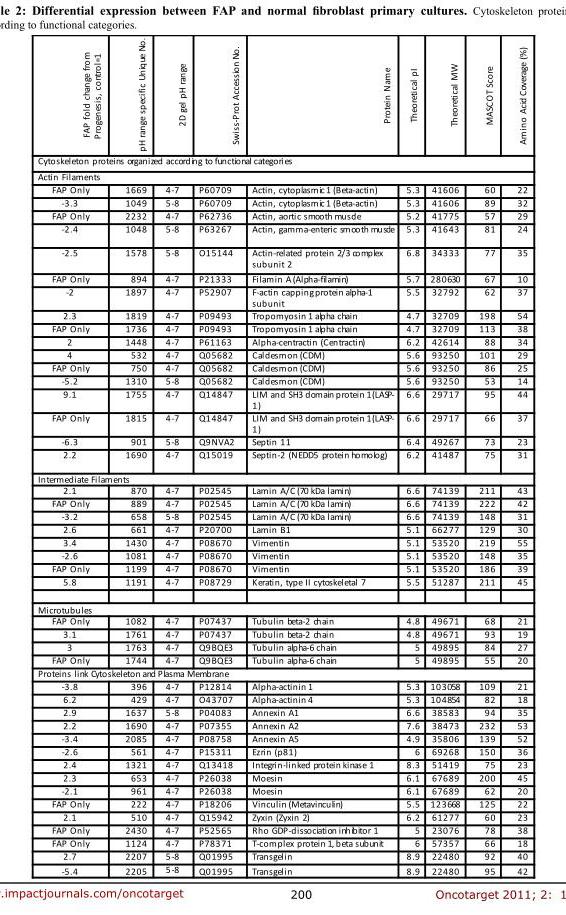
<table><thead><tr><td>FAP fold change from Progenesis, control=1</td><td>pH range specific Unique No.</td><td>2D gel pH range</td><td>Swiss-Prot Accession No.</td><td>Protein Name</td><td>Theoretical pI</td><td>Theoretical MW</td><td>MASCOT Score</td><td>Amino Acid Coverage (%)</td></tr></thead><tbody><tr><td colspan="9">Cytoskeleton proteins organized according to functional categories</td></tr><tr><td colspan="9">Actin Filaments</td></tr><tr><td>FAP Only</td><td>1669</td><td>4-7</td><td>P60709</td><td>Actin, cytoplasmic 1 (Beta-actin)</td><td>5.3</td><td>41606</td><td>60</td><td>22</td></tr><tr><td>-3.3</td><td>1049</td><td>5-8</td><td>P60709</td><td>Actin, cytoplasmic 1 (Beta-actin)</td><td>5.3</td><td>41606</td><td>89</td><td>32</td></tr><tr><td>FAP Only</td><td>2232</td><td>4-7</td><td>P62736</td><td>Actin, aortic smooth muscle</td><td>5.2</td><td>41775</td><td>57</td><td>29</td></tr><tr><td>-2.4</td><td>1048</td><td>5-8</td><td>P63267</td><td>Actin, gamma-enteric smooth muscle</td><td>5.3</td><td>41643</td><td>81</td><td>24</td></tr><tr><td>-2.5</td><td>1578</td><td>5-8</td><td>O15144</td><td>Actin-related protein 2/3 complex subunit 2</td><td>6.8</td><td>34333</td><td>77</td><td>35</td></tr><tr><td>FAP Only</td><td>894</td><td>4-7</td><td>P21333</td><td>Filamin A (Alpha-filamin)</td><td>5.7</td><td>280630</td><td>67</td><td>10</td></tr><tr><td>-2</td><td>1897</td><td>4-7</td><td>P52907</td><td>F-actin capping protein alpha-1 subunit</td><td>5.5</td><td>32792</td><td>62</td><td>37</td></tr><tr><td>2.3</td><td>1819</td><td>4-7</td><td>P09493</td><td>Tropomyosin 1 alpha chain</td><td>4.7</td><td>32709</td><td>198</td><td>54</td></tr><tr><td>FAP Only</td><td>1736</td><td>4-7</td><td>P09493</td><td>Tropomyosin 1 alpha chain</td><td>4.7</td><td>32709</td><td>113</td><td>38</td></tr><tr><td>2</td><td>1448</td><td>4-7</td><td>P61163</td><td>Alpha-centractin (Centractin)</td><td>6.2</td><td>42614</td><td>88</td><td>34</td></tr><tr><td>4</td><td>532</td><td>4-7</td><td>Q05682</td><td>Caldesmon (CDM)</td><td>5.6</td><td>93250</td><td>101</td><td>29</td></tr><tr><td>FAP Only</td><td>750</td><td>4-7</td><td>Q05682</td><td>Caldesmon (CDM)</td><td>5.6</td><td>93250</td><td>86</td><td>25</td></tr><tr><td>-5.2</td><td>1310</td><td>5-8</td><td>Q05682</td><td>Caldesmon (CDM)</td><td>5.6</td><td>93250</td><td>53</td><td>14</td></tr><tr><td>9.1</td><td>1755</td><td>4-7</td><td>Q14847</td><td>LIM and SH3 domain protein 1 (LASP- 1)</td><td>6.6</td><td>29717</td><td>95</td><td>44</td></tr><tr><td>FAP Only</td><td>1815</td><td>4-7</td><td>Q14847</td><td>LIM and SH3 domain protein 1 (LASP- 1)</td><td>6.6</td><td>29717</td><td>66</td><td>37</td></tr><tr><td>-6.3</td><td>901</td><td>5-8</td><td>Q9NVA2</td><td>Septin 11</td><td>6.4</td><td>49267</td><td>73</td><td>23</td></tr><tr><td>2.2</td><td>1690</td><td>4-7</td><td>Q15019</td><td>Septin-2 (NEDD5 protein homolog)</td><td>6.2</td><td>41487</td><td>75</td><td>31</td></tr><tr><td colspan="9">Intermediate Filaments</td></tr><tr><td>2.1</td><td>870</td><td>4-7</td><td>P02545</td><td>Lamin A/C (70 kDa lamin)</td><td>6.6</td><td>74139</td><td>211</td><td>43</td></tr><tr><td>FAP Only</td><td>889</td><td>4-7</td><td>P02545</td><td>Lamin A/C (70 kDa lamin)</td><td>6.6</td><td>74139</td><td>222</td><td>42</td></tr><tr><td>-3.2</td><td>658</td><td>5-8</td><td>P02545</td><td>Lamin A/C (70 kDa lamin)</td><td>6.6</td><td>74139</td><td>148</td><td>31</td></tr><tr><td>2.6</td><td>661</td><td>4-7</td><td>P20700</td><td>Lamin B1</td><td>5.1</td><td>66277</td><td>129</td><td>30</td></tr><tr><td>3.4</td><td>1430</td><td>4-7</td><td>P08670</td><td>Vimentin</td><td>5.1</td><td>53520</td><td>219</td><td>55</td></tr><tr><td>-2.6</td><td>1081</td><td>4-7</td><td>P08670</td><td>Vimentin</td><td>5.1</td><td>53520</td><td>148</td><td>35</td></tr><tr><td>FAP Only</td><td>1199</td><td>4-7</td><td>P08670</td><td>Vimentin</td><td>5.1</td><td>53520</td><td>186</td><td>39</td></tr><tr><td>5.8</td><td>1191</td><td>4-7</td><td>P08729</td><td>Keratin, type II cytoskeletal 7</td><td>5.5</td><td>51287</td><td>211</td><td>45</td></tr><tr><td colspan="9">Microtubules</td></tr><tr><td>FAP Only</td><td>1082</td><td>4-7</td><td>P07437</td><td>Tubulin beta-2 chain</td><td>4.8</td><td>49671</td><td>68</td><td>21</td></tr><tr><td>3.1</td><td>1761</td><td>4-7</td><td>P07437</td><td>Tubulin beta-2 chain</td><td>4.8</td><td>49671</td><td>93</td><td>19</td></tr><tr><td>3</td><td>1763</td><td>4-7</td><td>Q9BQE3</td><td>Tubulin alpha-6 chain</td><td>5</td><td>49895</td><td>84</td><td>27</td></tr><tr><td>FAP Only</td><td>1744</td><td>4-7</td><td>Q9BQE3</td><td>Tubulin alpha-6 chain</td><td>5</td><td>49895</td><td>55</td><td>20</td></tr><tr><td colspan="9">Proteins link Cytoskeleton and Plasma Membrane</td></tr><tr><td>-3.8</td><td>396</td><td>4-7</td><td>P12814</td><td>Alpha-actinin 1</td><td>5.3</td><td>103058</td><td>109</td><td>21</td></tr><tr><td>6.2</td><td>429</td><td>4-7</td><td>O43707</td><td>Alpha-actinin 4</td><td>5.3</td><td>104854</td><td>82</td><td>18</td></tr><tr><td>2.9</td><td>1637</td><td>5-8</td><td>P04083</td><td>Annexin A1</td><td>6.6</td><td>38583</td><td>94</td><td>35</td></tr><tr><td>2.2</td><td>1690</td><td>4-7</td><td>P07355</td><td>Annexin A2</td><td>7.6</td><td>38473</td><td>232</td><td>53</td></tr><tr><td>-3.4</td><td>2085</td><td>4-7</td><td>P08758</td><td>Annexin A5</td><td>4.9</td><td>35806</td><td>139</td><td>52</td></tr><tr><td>-2.6</td><td>561</td><td>4-7</td><td>P15311</td><td>Ezrin (p81)</td><td>6</td><td>69268</td><td>150</td><td>36</td></tr><tr><td>2.4</td><td>1321</td><td>4-7</td><td>Q13418</td><td>Integrin-linked protein kinase 1</td><td>8.3</td><td>51419</td><td>75</td><td>23</td></tr><tr><td>2.3</td><td>653</td><td>4-7</td><td>P26038</td><td>Moesin</td><td>6.1</td><td>67689</td><td>200</td><td>45</td></tr><tr><td>-2.1</td><td>961</td><td>4-7</td><td>P26038</td><td>Moesin</td><td>6.1</td><td>67689</td><td>62</td><td>20</td></tr><tr><td>FAP Only</td><td>222</td><td>4-7</td><td>P18206</td><td>Vinculin (Metavinculin)</td><td>5.5</td><td>123668</td><td>125</td><td>22</td></tr><tr><td>2.1</td><td>510</td><td>4-7</td><td>Q15942</td><td>Zyxin (Zyxin 2)</td><td>6.2</td><td>61277</td><td>60</td><td>23</td></tr><tr><td>FAP Only</td><td>2430</td><td>4-7</td><td>P52565</td><td>Rho GDP-dissociation inhibitor 1</td><td>5</td><td>23076</td><td>78</td><td>38</td></tr><tr><td>FAP Only</td><td>1124</td><td>4-7</td><td>P78371</td><td>T-complex protein 1, beta subunit</td><td>6</td><td>57357</td><td>66</td><td>18</td></tr><tr><td>2.7</td><td>2207</td><td>5-8</td><td>Q01995</td><td>Transgelin</td><td>8.9</td><td>22480</td><td>92</td><td>40</td></tr><tr><td>-5.4</td><td>2205</td><td>5-8</td><td>Q01995</td><td>Transgelin</td><td>8.9</td><td>22480</td><td>95</td><td>42</td></tr></tbody></table>